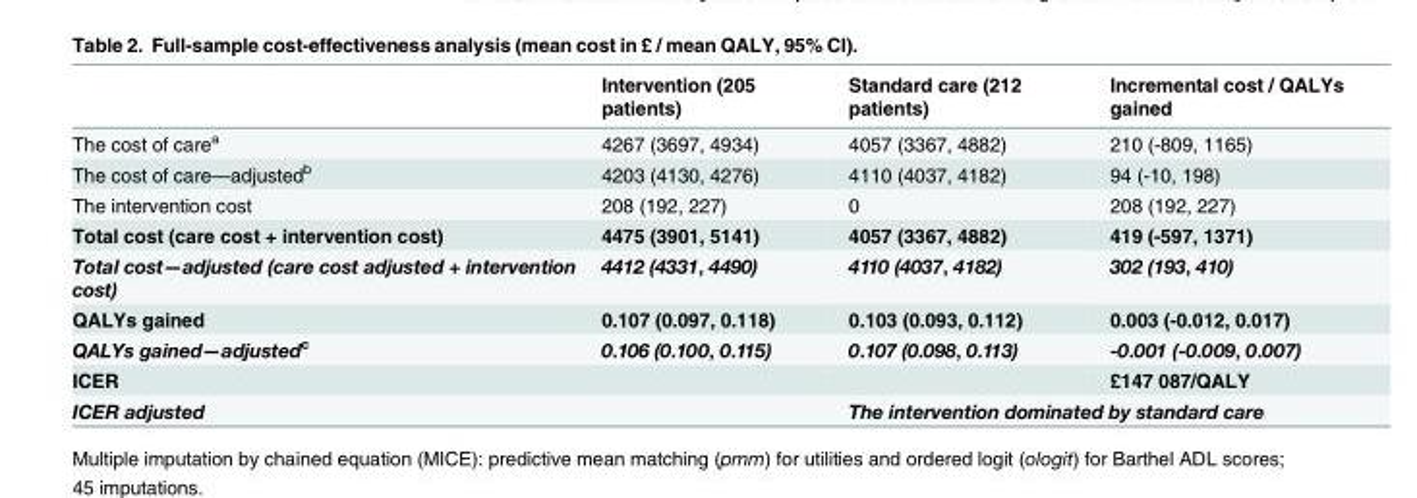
<table><thead><tr><td></td><td>Intervention (205 patients)</td><td>Standard care (212 patients)</td><td>Incremental cost / QALYs gained</td></tr></thead><tbody><tr><td>The cost of care<sup>a</sup></td><td>4267 (3697, 4934)</td><td>4057 (3367, 4882)</td><td>210 (-809, 1165)</td></tr><tr><td>The cost of care—adjusted<sup>b</sup></td><td>4203 (4130, 4276)</td><td>4110 (4037, 4182)</td><td>94 (-10, 198)</td></tr><tr><td>The intervention cost</td><td>208 (192, 227)</td><td>0</td><td>208 (192, 227)</td></tr><tr><td>Total cost (care cost + intervention cost)</td><td>4475 (3901, 5141)</td><td>4057 (3367, 4882)</td><td>419 (-597, 1371)</td></tr><tr><td>Total cost—adjusted (care cost adjusted + intervention cost)</td><td>4412 (4331, 4490)</td><td>4110 (4037, 4182)</td><td>302 (193, 410)</td></tr><tr><td>QALYs gained</td><td>0.107 (0.097, 0.118)</td><td>0.103 (0.093, 0.112)</td><td>0.003 (-0.012, 0.017)</td></tr><tr><td>QALYs gained—adjusted<sup>c</sup></td><td>0.106 (0.100, 0.115)</td><td>0.107 (0.098, 0.113)</td><td>-0.001 (-0.009, 0.007)</td></tr><tr><td>ICER</td><td></td><td></td><td>£147 087/QALY</td></tr><tr><td>ICER adjusted</td><td></td><td colspan="2">The intervention dominated by standard care</td></tr></tbody></table>